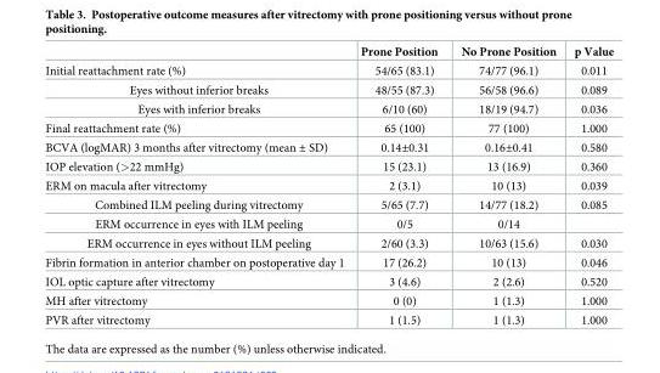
<table><thead><tr><td></td><td>Prone Position</td><td>No Prone Position</td><td>p Value</td></tr></thead><tbody><tr><td>Initial reattachment rate (%)</td><td>54/65 (83.1)</td><td>74/77 (96.1)</td><td>0.011</td></tr><tr><td>Eyes without inferior breaks</td><td>48/55 (87.3)</td><td>56/58 (96.6)</td><td>0.089</td></tr><tr><td>Eyes with inferior breaks</td><td>6/10 (60)</td><td>18/19 (94.7)</td><td>0.036</td></tr><tr><td>Final reattachment rate (%)</td><td>65 (100)</td><td>77 (100)</td><td>1.000</td></tr><tr><td>BCVA (logMAR) 3 months after vitrectomy (mean ± SD)</td><td>0.14±0.31</td><td>0.16±0.41</td><td>0.580</td></tr><tr><td>IOP elevation (&gt;22 mmHg)</td><td>15 (23.1)</td><td>13 (16.9)</td><td>0.360</td></tr><tr><td>ERM on macula after vitrectomy</td><td>2 (3.1)</td><td>10 (13)</td><td>0.039</td></tr><tr><td>Combined ILM peeling during vitrectomy</td><td>5/65 (7.7)</td><td>14/77 (18.2)</td><td>0.085</td></tr><tr><td>ERM occurrence in eyes with ILM peeling</td><td>0/5</td><td>0/14</td><td></td></tr><tr><td>ERM occurrence in eyes without ILM peeling</td><td>2/60 (3.3)</td><td>10/63 (15.6)</td><td>0.030</td></tr><tr><td>Fibrin formation in anterior chamber on postoperative day 1</td><td>17 (26.2)</td><td>10 (13)</td><td>0.046</td></tr><tr><td>IOL optic capture after vitrectomy</td><td>3 (4.6)</td><td>2 (2.6)</td><td>0.520</td></tr><tr><td>MH after vitrectomy</td><td>0 (0)</td><td>1 (1.3)</td><td>1.000</td></tr><tr><td>PVR after vitrectomy</td><td>1 (1.5)</td><td>1 (1.3)</td><td>1.000</td></tr></tbody></table>